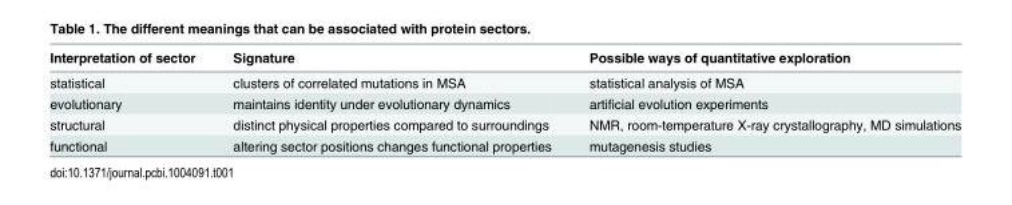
<table><thead><tr><td>Interpretation of sector</td><td>Signature</td><td>Possible ways of quantitative exploration</td></tr></thead><tbody><tr><td>statistical</td><td>clusters of correlated mutations in MSA</td><td>statistical analysis of MSA</td></tr><tr><td>evolutionary</td><td>maintains identity under evolutionary dynamics</td><td>artificial evolution experiments</td></tr><tr><td>structural</td><td>distinct physical properties compared to surroundings</td><td>NMR, room-temperature X-ray crystallography, MD simulations</td></tr><tr><td>functional</td><td>altering sector positions changes functional properties</td><td>mutagenesis studies</td></tr></tbody></table>